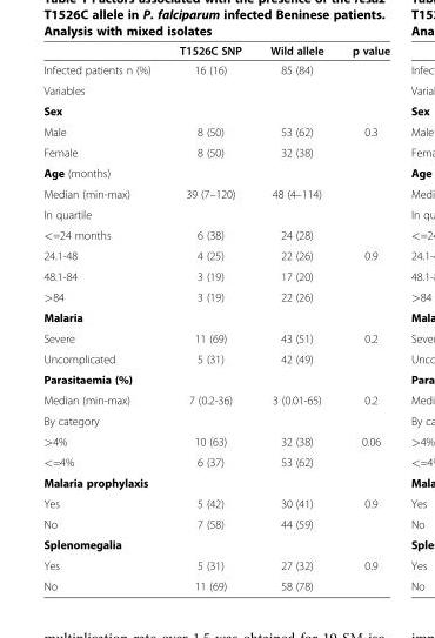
<table><thead><tr><td></td><td>T1526C SNP</td><td>Wild allele</td><td>p value</td></tr></thead><tbody><tr><td>Infected patients n (%)</td><td>16 (16)</td><td>85 (84)</td><td></td></tr><tr><td colspan="4">Variables</td></tr><tr><td colspan="4">Sex</td></tr><tr><td>Male</td><td>8 (50)</td><td>53 (62)</td><td>0.3</td></tr><tr><td>Female</td><td>8 (50)</td><td>32 (38)</td><td></td></tr><tr><td colspan="4">Age (months)</td></tr><tr><td>Median (min-max)</td><td>39 (7–120)</td><td>48 (4–114)</td><td></td></tr><tr><td colspan="4">In quartile</td></tr><tr><td>&lt;=24 months</td><td>6 (38)</td><td>24 (28)</td><td></td></tr><tr><td>24.1-48</td><td>4 (25)</td><td>22 (26)</td><td>0.9</td></tr><tr><td>48.1-84</td><td>3 (19)</td><td>17 (20)</td><td></td></tr><tr><td>&gt;84</td><td>3 (19)</td><td>22 (26)</td><td></td></tr><tr><td colspan="4">Malaria</td></tr><tr><td>Severe</td><td>11 (69)</td><td>43 (51)</td><td>0.2</td></tr><tr><td>Uncomplicated</td><td>5 (31)</td><td>42 (49)</td><td></td></tr><tr><td colspan="4">Parasitaemia (%)</td></tr><tr><td>Median (min-max)</td><td>7 (0.2-36)</td><td>3 (0.01-65)</td><td>0.2</td></tr><tr><td colspan="4">By category</td></tr><tr><td>&gt;4%</td><td>10 (63)</td><td>32 (38)</td><td>0.06</td></tr><tr><td>&lt;=4%</td><td>6 (37)</td><td>53 (62)</td><td></td></tr><tr><td colspan="4">Malaria prophylaxis</td></tr><tr><td>Yes</td><td>5 (42)</td><td>30 (41)</td><td>0.9</td></tr><tr><td>No</td><td>7 (58)</td><td>44 (59)</td><td></td></tr><tr><td colspan="4">Splenomegalia</td></tr><tr><td>Yes</td><td>5 (31)</td><td>27 (32)</td><td>0.9</td></tr><tr><td>No</td><td>11 (69)</td><td>58 (78)</td><td></td></tr></tbody></table>